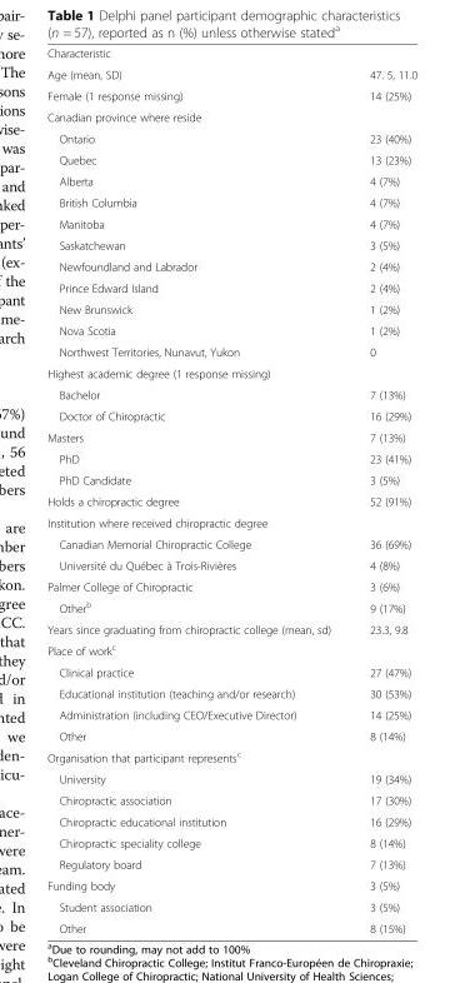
<table><tbody><tr><td colspan="2">Characteristic</td></tr><tr><td>Age (mean, SD)</td><td>47. 5, 11.0</td></tr><tr><td>Female (1 response missing)</td><td>14 (25%)</td></tr><tr><td colspan="2">Canadian province where reside</td></tr><tr><td>Ontario</td><td>23 (40%)</td></tr><tr><td>Quebec</td><td>13 (23%)</td></tr><tr><td>Alberta</td><td>4 (7%)</td></tr><tr><td>British Columbia</td><td>4 (7%)</td></tr><tr><td>Manitoba</td><td>4 (7%)</td></tr><tr><td>Saskatchewan</td><td>3 (5%)</td></tr><tr><td>Newfoundland and Labrador</td><td>2 (4%)</td></tr><tr><td>Prince Edward Island</td><td>2 (4%)</td></tr><tr><td>New Brunswick</td><td>1 (2%)</td></tr><tr><td>Nova Scotia</td><td>1 (2%)</td></tr><tr><td>Northwest Territories, Nunavut, Yukon</td><td>0</td></tr><tr><td colspan="2">Highest academic degree (1 response missing)</td></tr><tr><td>Bachelor</td><td>7 (13%)</td></tr><tr><td>Doctor of Chiropractic</td><td>16 (29%)</td></tr><tr><td>Masters</td><td>7 (13%)</td></tr><tr><td>PhD</td><td>23 (41%)</td></tr><tr><td>PhD Candidate</td><td>3 (5%)</td></tr><tr><td>Holds a chiropractic degree</td><td>52 (91%)</td></tr><tr><td colspan="2">Institution where received chiropractic degree</td></tr><tr><td>Canadian Memorial Chiropractic College</td><td>36 (69%)</td></tr><tr><td>Université du Québec à Trois-Rivières</td><td>4 (8%)</td></tr><tr><td>Palmer College of Chiropractic</td><td>3 (6%)</td></tr><tr><td>Other<sup>b</sup></td><td>9 (17%)</td></tr><tr><td>Years since graduating from chiropractic college (mean, sd)</td><td>23.3, 9.8</td></tr><tr><td colspan="2">Place of work<sup>c</sup></td></tr><tr><td>Clinical practice</td><td>27 (47%)</td></tr><tr><td>Educational institution (teaching and/or research)</td><td>30 (53%)</td></tr><tr><td>Administration (including CEO/Executive Director)</td><td>14 (25%)</td></tr><tr><td>Other</td><td>8 (14%)</td></tr><tr><td colspan="2">Organisation that participant represents<sup>c</sup></td></tr><tr><td>University</td><td>19 (34%)</td></tr><tr><td>Chiropractic association</td><td>17 (30%)</td></tr><tr><td>Chiropractic educational institution</td><td>16 (29%)</td></tr><tr><td>Chiropractic speciality college</td><td>8 (14%)</td></tr><tr><td>Regulatory board</td><td>7 (13%)</td></tr><tr><td>Funding body</td><td>3 (5%)</td></tr><tr><td>Student association</td><td>3 (5%)</td></tr><tr><td>Other</td><td>8 (15%)</td></tr></tbody></table>